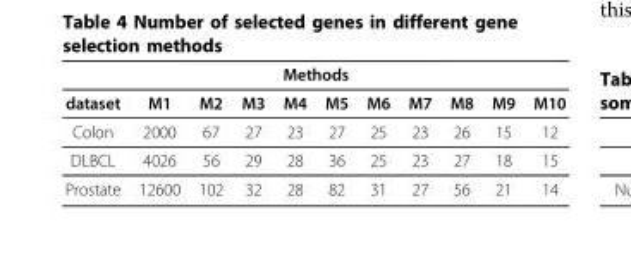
<table><thead><tr><td colspan="11">Methods</td></tr><tr><td>dataset</td><td>M1</td><td>M2</td><td>M3</td><td>M4</td><td>M5</td><td>M6</td><td>M7</td><td>M8</td><td>M9</td><td>M10</td></tr></thead><tbody><tr><td>Colon</td><td>2000</td><td>67</td><td>27</td><td>23</td><td>27</td><td>25</td><td>23</td><td>26</td><td>15</td><td>12</td></tr><tr><td>DLBCL</td><td>4026</td><td>56</td><td>29</td><td>28</td><td>36</td><td>25</td><td>23</td><td>27</td><td>18</td><td>15</td></tr><tr><td>Prostate</td><td>12600</td><td>102</td><td>32</td><td>28</td><td>82</td><td>31</td><td>27</td><td>56</td><td>21</td><td>14</td></tr></tbody></table>